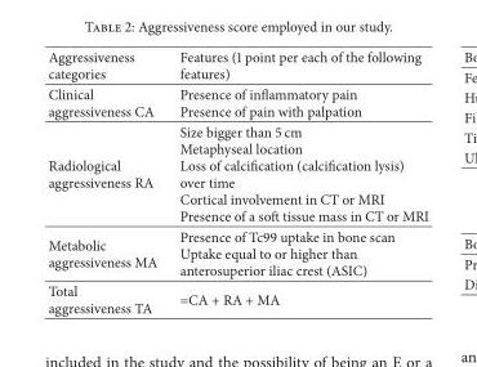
<table><thead><tr><td>Aggressiveness categories</td><td>Features (1 point per each of the following features)</td></tr></thead><tbody><tr><td>Clinical aggressiveness CA</td><td>Presence of inflammatory pain Presence of pain with palpation</td></tr><tr><td>Radiological aggressiveness RA</td><td>Size bigger than 5 cm Metaphyseal location Loss of calcification (calcification lysis) over time Cortical involvement in CT or MRI Presence of a soft tissue mass in CT or MRI</td></tr><tr><td>Metabolic aggressiveness MA</td><td>Presence of Tc99 uptake in bone scan Uptake equal to or higher than anterosuperior iliac crest (ASIC)</td></tr><tr><td>Total aggressiveness TA</td><td>=CA + RA + MA</td></tr></tbody></table>